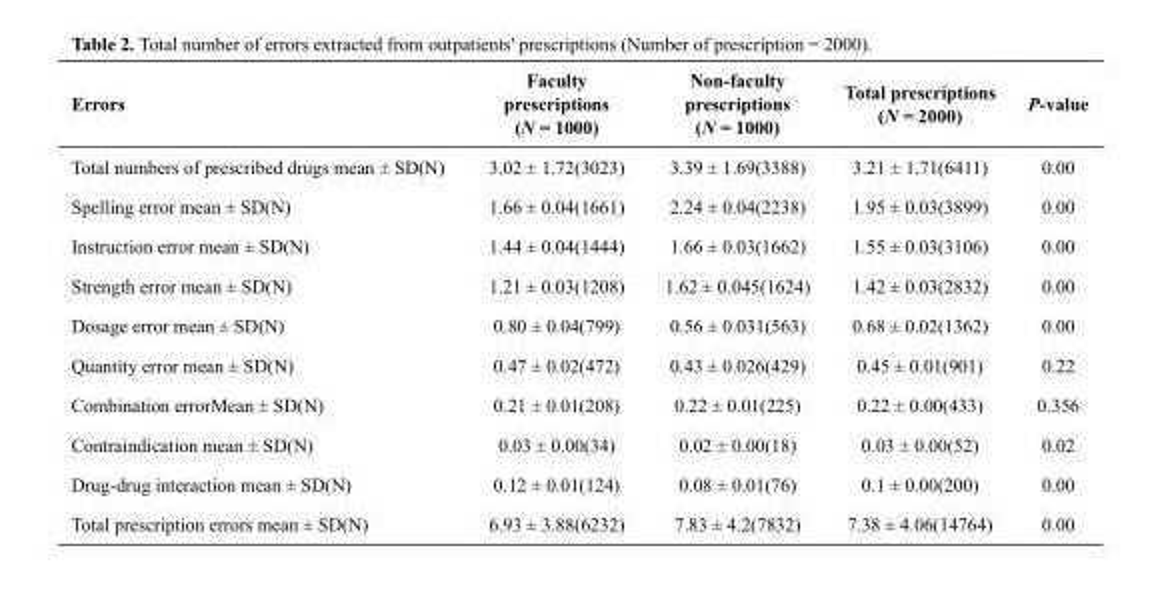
<table><thead><tr><td>Errors</td><td>Faculty prescriptions (N = 1000)</td><td>Non-faculty prescriptions (N = 1000)</td><td>Total prescriptions (N = 2000)</td><td>P-value</td></tr></thead><tbody><tr><td>Total numbers of prescribed drugs mean ± SD(N)</td><td>3.02 ± 1.72(3023)</td><td>3.39 ± 1.69(3388)</td><td>3.21 ± 1.71(6411)</td><td>0.00</td></tr><tr><td>Spelling error mean ± SD(N)</td><td>1.66 ± 0.04(1661)</td><td>2.24 ± 0.04(2238)</td><td>1.95 ± 0.03(3899)</td><td>0.00</td></tr><tr><td>Instruction error mean ± SD(N)</td><td>1.44 ± 0.04(1444)</td><td>1.66 ± 0.03(1662)</td><td>1.55 ± 0.03(3106)</td><td>0.00</td></tr><tr><td>Strength error mean ± SD(N)</td><td>1.21 ± 0.03(1208)</td><td>1.62 ± 0.045(1624)</td><td>1.42 ± 0.03(2832)</td><td>0.00</td></tr><tr><td>Dosage error mean ± SD(N)</td><td>0.80 ± 0.04(799)</td><td>0.56 ± 0.031(563)</td><td>0.68 ± 0.02(1362)</td><td>0.00</td></tr><tr><td>Quantity error mean ± SD(N)</td><td>0.47 ± 0.02(472)</td><td>0.43 ± 0.026(429)</td><td>0.45 ± 0.01(901)</td><td>0.22</td></tr><tr><td>Combination errorMean ± SD(N)</td><td>0.21 ± 0.01(208)</td><td>0.22 ± 0.01(225)</td><td>0.22 ± 0.00(433)</td><td>0.356</td></tr><tr><td>Contraindication mean ± SD(N)</td><td>0.03 ± 0.00(34)</td><td>0.02 ± 0.00(18)</td><td>0.03 ± 0.00(52)</td><td>0.02</td></tr><tr><td>Drug-drug interaction mean ± SD(N)</td><td>0.12 ± 0.01(124)</td><td>0.08 ± 0.01(76)</td><td>0.1 ± 0.00(200)</td><td>0.00</td></tr><tr><td>Total prescription errors mean ± SD(N)</td><td>6.93 ± 3.88(6232)</td><td>7.83 ± 4.2(7832)</td><td>7.38 ± 4.06(14764)</td><td>0.00</td></tr></tbody></table>